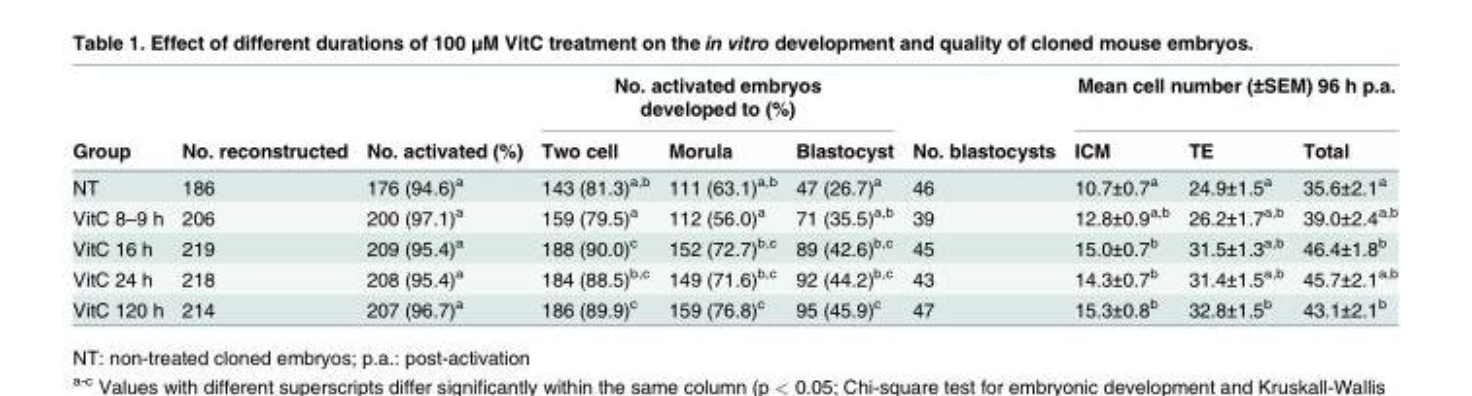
<table><thead><tr><td rowspan="2">Group</td><td rowspan="2">No. reconstructed</td><td rowspan="2">No. activated (%)</td><td colspan="3">No. activated embryos developed to (%)</td><td rowspan="2">No. blastocysts</td><td colspan="3">Mean cell number (±SEM) 96 h p.a.</td></tr><tr><td>Two cell</td><td>Morula</td><td>Blastocyst</td><td>ICM</td><td>TE</td><td>Total</td></tr></thead><tbody><tr><td>NT</td><td>186</td><td>176 (94.6)<sup>a</sup></td><td>143 (81.3)<sup>a,b</sup></td><td>111 (63.1)<sup>a,b</sup></td><td>47 (26.7)<sup>a</sup></td><td>46</td><td>10.7±0.7<sup>a</sup></td><td>24.9±1.5<sup>a</sup></td><td>35.6±2.1<sup>a</sup></td></tr><tr><td>VitC 8–9 h</td><td>206</td><td>200 (97.1)<sup>a</sup></td><td>159 (79.5)<sup>a</sup></td><td>112 (56.0)<sup>a</sup></td><td>71 (35.5)<sup>a,b</sup></td><td>39</td><td>12.8±0.9<sup>a,b</sup></td><td>26.2±1.7<sup>a,b</sup></td><td>39.0±2.4<sup>a,b</sup></td></tr><tr><td>VitC 16 h</td><td>219</td><td>209 (95.4)<sup>a</sup></td><td>188 (90.0)<sup>c</sup></td><td>152 (72.7)<sup>b,c</sup></td><td>89 (42.6)<sup>b,c</sup></td><td>45</td><td>15.0±0.7<sup>b</sup></td><td>31.5±1.3<sup>a,b</sup></td><td>46.4±1.8<sup>b</sup></td></tr><tr><td>VitC 24 h</td><td>218</td><td>208 (95.4)<sup>a</sup></td><td>184 (88.5)<sup>b,c</sup></td><td>149 (71.6)<sup>b,c</sup></td><td>92 (44.2)<sup>b,c</sup></td><td>43</td><td>14.3±0.7<sup>b</sup></td><td>31.4±1.5<sup>a,b</sup></td><td>45.7±2.1<sup>a,b</sup></td></tr><tr><td>VitC 120 h</td><td>214</td><td>207 (96.7)<sup>a</sup></td><td>186 (89.9)<sup>c</sup></td><td>159 (76.8)<sup>c</sup></td><td>95 (45.9)<sup>c</sup></td><td>47</td><td>15.3±0.8<sup>b</sup></td><td>32.8±1.5<sup>b</sup></td><td>43.1±2.1<sup>b</sup></td></tr></tbody></table>